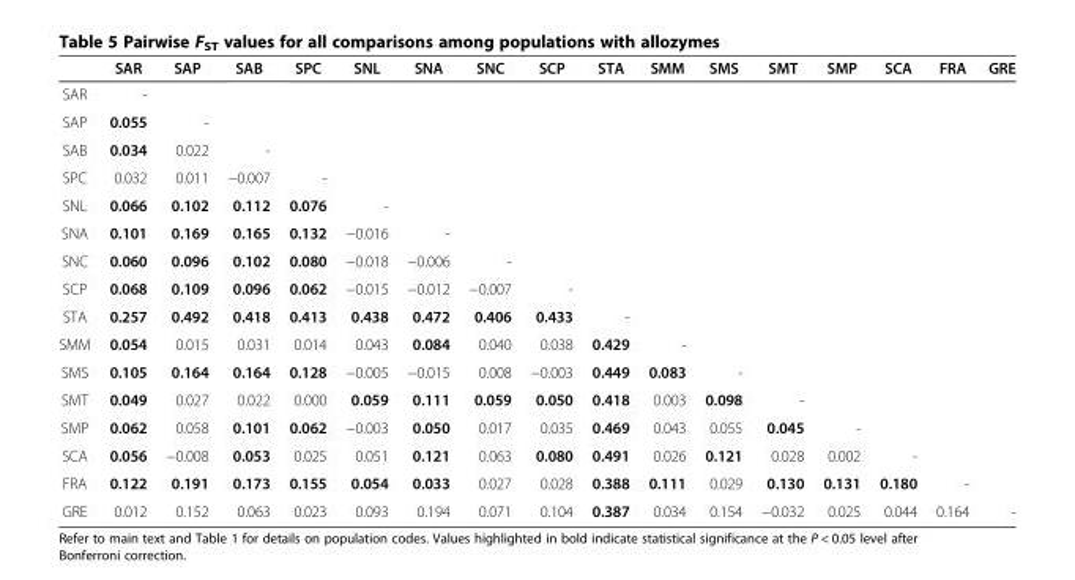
<table><thead><tr><td></td><td>SAR</td><td>SAP</td><td>SAB</td><td>SPC</td><td>SNL</td><td>SNA</td><td>SNC</td><td>SCP</td><td>STA</td><td>SMM</td><td>SMS</td><td>SMT</td><td>SMP</td><td>SCA</td><td>FRA</td><td>GRE</td></tr></thead><tbody><tr><td>SAR</td><td>-</td><td></td><td></td><td></td><td></td><td></td><td></td><td></td><td></td><td></td><td></td><td></td><td></td><td></td><td></td><td></td></tr><tr><td>SAP</td><td>0.055</td><td>-</td><td></td><td></td><td></td><td></td><td></td><td></td><td></td><td></td><td></td><td></td><td></td><td></td><td></td><td></td></tr><tr><td>SAB</td><td>0.034</td><td>0.022</td><td>-</td><td></td><td></td><td></td><td></td><td></td><td></td><td></td><td></td><td></td><td></td><td></td><td></td><td></td></tr><tr><td>SPC</td><td>0.032</td><td>0.011</td><td>−0.007</td><td>-</td><td></td><td></td><td></td><td></td><td></td><td></td><td></td><td></td><td></td><td></td><td></td><td></td></tr><tr><td>SNL</td><td>0.066</td><td>0.102</td><td>0.112</td><td>0.076</td><td>-</td><td></td><td></td><td></td><td></td><td></td><td></td><td></td><td></td><td></td><td></td><td></td></tr><tr><td>SNA</td><td>0.101</td><td>0.169</td><td>0.165</td><td>0.132</td><td>−0.016</td><td>-</td><td></td><td></td><td></td><td></td><td></td><td></td><td></td><td></td><td></td><td></td></tr><tr><td>SNC</td><td>0.060</td><td>0.096</td><td>0.102</td><td>0.080</td><td>−0.018</td><td>−0.006</td><td>-</td><td></td><td></td><td></td><td></td><td></td><td></td><td></td><td></td><td></td></tr><tr><td>SCP</td><td>0.068</td><td>0.109</td><td>0.096</td><td>0.062</td><td>−0.015</td><td>−0.012</td><td>−0.007</td><td>-</td><td></td><td></td><td></td><td></td><td></td><td></td><td></td><td></td></tr><tr><td>STA</td><td>0.257</td><td>0.492</td><td>0.418</td><td>0.413</td><td>0.438</td><td>0.472</td><td>0.406</td><td>0.433</td><td>-</td><td></td><td></td><td></td><td></td><td></td><td></td><td></td></tr><tr><td>SMM</td><td>0.054</td><td>0.015</td><td>0.031</td><td>0.014</td><td>0.043</td><td>0.084</td><td>0.040</td><td>0.038</td><td>0.429</td><td>-</td><td></td><td></td><td></td><td></td><td></td><td></td></tr><tr><td>SMS</td><td>0.105</td><td>0.164</td><td>0.164</td><td>0.128</td><td>−0.005</td><td>−0.015</td><td>0.008</td><td>−0.003</td><td>0.449</td><td>0.083</td><td>-</td><td></td><td></td><td></td><td></td><td></td></tr><tr><td>SMT</td><td>0.049</td><td>0.027</td><td>0.022</td><td>0.000</td><td>0.059</td><td>0.111</td><td>0.059</td><td>0.050</td><td>0.418</td><td>0.003</td><td>0.098</td><td>-</td><td></td><td></td><td></td><td></td></tr><tr><td>SMP</td><td>0.062</td><td>0.058</td><td>0.101</td><td>0.062</td><td>−0.003</td><td>0.050</td><td>0.017</td><td>0.035</td><td>0.469</td><td>0.043</td><td>0.055</td><td>0.045</td><td>-</td><td></td><td></td><td></td></tr><tr><td>SCA</td><td>0.056</td><td>−0.008</td><td>0.053</td><td>0.025</td><td>0.051</td><td>0.121</td><td>0.063</td><td>0.080</td><td>0.491</td><td>0.026</td><td>0.121</td><td>0.028</td><td>0.002</td><td>-</td><td></td><td></td></tr><tr><td>FRA</td><td>0.122</td><td>0.191</td><td>0.173</td><td>0.155</td><td>0.054</td><td>0.033</td><td>0.027</td><td>0.028</td><td>0.388</td><td>0.111</td><td>0.029</td><td>0.130</td><td>0.131</td><td>0.180</td><td>-</td><td></td></tr><tr><td>GRE</td><td>0.012</td><td>0.152</td><td>0.063</td><td>0.023</td><td>0.093</td><td>0.194</td><td>0.071</td><td>0.104</td><td>0.387</td><td>0.034</td><td>0.154</td><td>−0.032</td><td>0.025</td><td>0.044</td><td>0.164</td><td>-</td></tr></tbody></table>